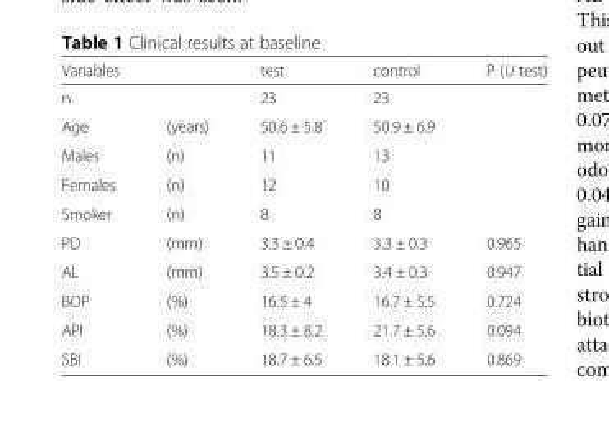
<table><thead><tr><td rowspan="2" colspan="2">Variables n</td><td rowspan="3">test 23 50.6 ± 5.8</td><td rowspan="3">control 23 50.9 ± 6.9</td><td rowspan="3">P (U test)</td></tr><tr></tr><tr><td>Age</td><td>(years)</td></tr></thead><tbody><tr><td>Males</td><td>(n)</td><td>11</td><td>13</td><td></td></tr><tr><td>Females</td><td>(n)</td><td>12</td><td>10</td><td></td></tr><tr><td>Smoker</td><td>(n)</td><td>8</td><td>8</td><td></td></tr><tr><td>PD</td><td>(mm)</td><td>3.3 ± 0.4</td><td>3.3 ± 0.3</td><td>0.965</td></tr><tr><td>AL</td><td>(mm)</td><td>3.5 ± 0.2</td><td>3.4 ± 0.3</td><td>0.947</td></tr><tr><td>BOP</td><td>(%)</td><td>16.5 ± 4</td><td>16.7 ± 5.5</td><td>0.724</td></tr><tr><td>API</td><td>(%)</td><td>18.3 ± 8.2</td><td>21.7 ± 5.6</td><td>0.094</td></tr><tr><td>SBI</td><td>(%)</td><td>18.7 ± 6.5</td><td>18.1 ± 5.6</td><td>0.869</td></tr></tbody></table>